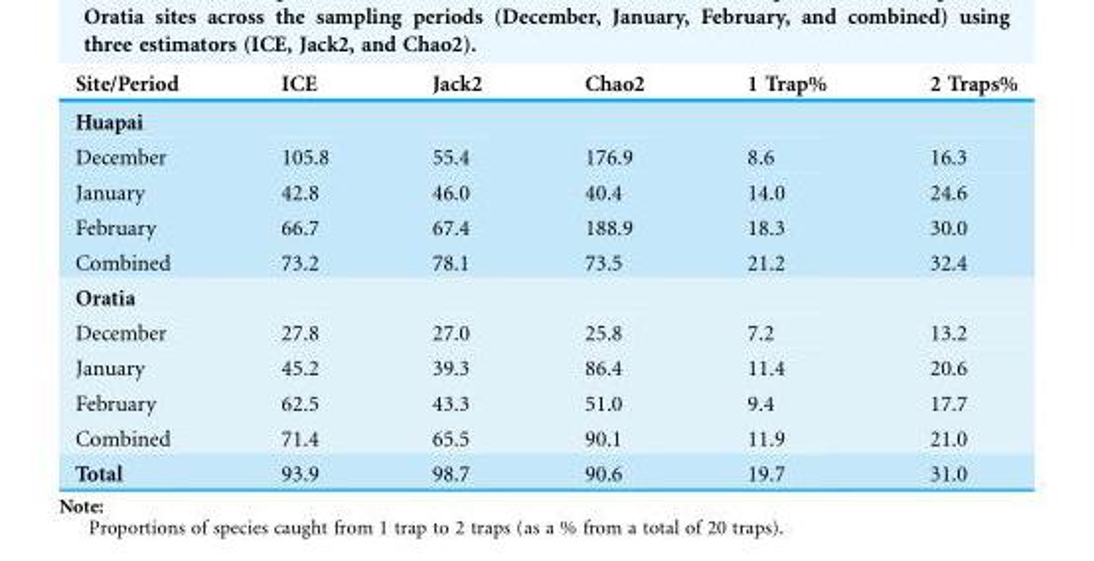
<table><thead><tr><td>Site/Period</td><td>ICE</td><td>Jack2</td><td>Chao2</td><td>1 Trap%</td><td>2 Traps%</td></tr></thead><tbody><tr><td colspan="6">Huapai</td></tr><tr><td>December</td><td>105.8</td><td>55.4</td><td>176.9</td><td>8.6</td><td>16.3</td></tr><tr><td>January</td><td>42.8</td><td>46.0</td><td>40.4</td><td>14.0</td><td>24.6</td></tr><tr><td>February</td><td>66.7</td><td>67.4</td><td>188.9</td><td>18.3</td><td>30.0</td></tr><tr><td>Combined</td><td>73.2</td><td>78.1</td><td>73.5</td><td>21.2</td><td>32.4</td></tr><tr><td colspan="6">Oratia</td></tr><tr><td>December</td><td>27.8</td><td>27.0</td><td>25.8</td><td>7.2</td><td>13.2</td></tr><tr><td>January</td><td>45.2</td><td>39.3</td><td>86.4</td><td>11.4</td><td>20.6</td></tr><tr><td>February</td><td>62.5</td><td>43.3</td><td>51.0</td><td>9.4</td><td>17.7</td></tr><tr><td>Combined</td><td>71.4</td><td>65.5</td><td>90.1</td><td>11.9</td><td>21.0</td></tr><tr><td>Total</td><td>93.9</td><td>98.7</td><td>90.6</td><td>19.7</td><td>31.0</td></tr></tbody></table>